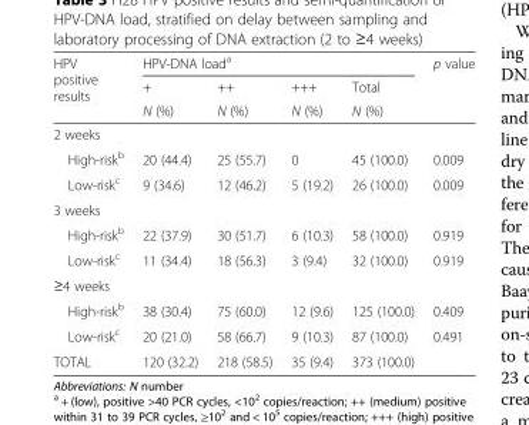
<table><thead><tr><td rowspan="3">HPV positive results</td><td colspan="4">HPV-DNA load<sup>a</sup></td><td rowspan="3">p value</td></tr><tr><td rowspan="2">+ N (%)</td><td rowspan="2">++ N (%)</td><td rowspan="2">+++ N (%)</td><td rowspan="2">Total N (%)</td></tr><tr></tr></thead><tbody><tr><td colspan="6">2 weeks</td></tr><tr><td>High-risk<sup>b</sup></td><td>20 (44.4)</td><td>25 (55.7)</td><td>0</td><td>45 (100.0)</td><td>0.009</td></tr><tr><td>Low-risk<sup>c</sup></td><td>9 (34.6)</td><td>12 (46.2)</td><td>5 (19.2)</td><td>26 (100.0)</td><td>0.009</td></tr><tr><td colspan="6">3 weeks</td></tr><tr><td>High-risk<sup>b</sup></td><td>22 (37.9)</td><td>30 (51.7)</td><td>6 (10.3)</td><td>58 (100.0)</td><td>0.919</td></tr><tr><td>Low-risk<sup>c</sup></td><td>11 (34.4)</td><td>18 (56.3)</td><td>3 (9.4)</td><td>32 (100.0)</td><td>0.919</td></tr><tr><td colspan="6">≥4 weeks</td></tr><tr><td>High-risk<sup>b</sup></td><td>38 (30.4)</td><td>75 (60.0)</td><td>12 (9.6)</td><td>125 (100.0)</td><td>0.409</td></tr><tr><td>Low-risk<sup>c</sup></td><td>20 (21.0)</td><td>58 (66.7)</td><td>9 (10.3)</td><td>87 (100.0)</td><td>0.491</td></tr><tr><td>TOTAL</td><td>120 (32.2)</td><td>218 (58.5)</td><td>35 (9.4)</td><td>373 (100.0)</td><td></td></tr></tbody></table>